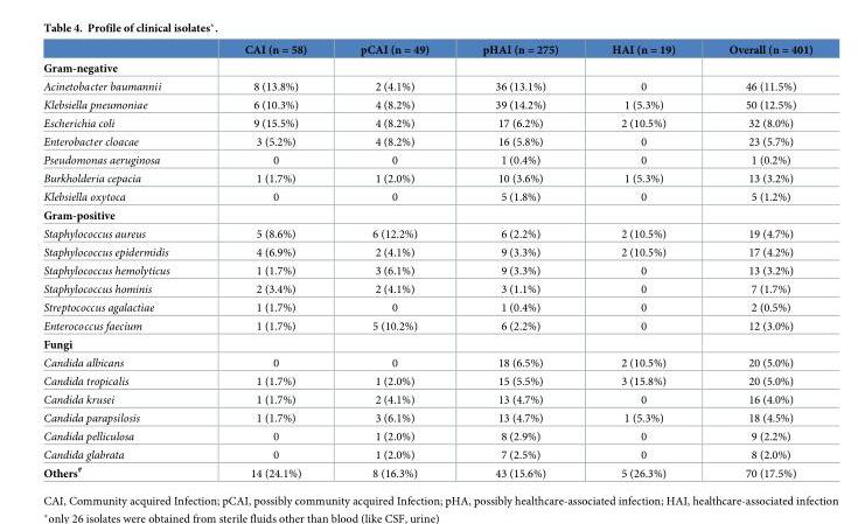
<table><thead><tr><td></td><td>CAI (n = 58)</td><td>pCAI (n = 49)</td><td>pHAI (n = 275)</td><td>HAI (n = 19)</td><td>Overall (n = 401)</td></tr></thead><tbody><tr><td colspan="6">Gram-negative</td></tr><tr><td>Acinetobacter baumannii</td><td>8 (13.8%)</td><td>2 (4.1%)</td><td>36 (13.1%)</td><td>0</td><td>46 (11.5%)</td></tr><tr><td>Klebsiella pneumoniae</td><td>6 (10.3%)</td><td>4 (8.2%)</td><td>39 (14.2%)</td><td>1 (5.3%)</td><td>50 (12.5%)</td></tr><tr><td>Escherichia coli</td><td>9 (15.5%)</td><td>4 (8.2%)</td><td>17 (6.2%)</td><td>2 (10.5%)</td><td>32 (8.0%)</td></tr><tr><td>Enterobacter cloacae</td><td>3 (5.2%)</td><td>4 (8.2%)</td><td>16 (5.8%)</td><td>0</td><td>23 (5.7%)</td></tr><tr><td>Pseudomonas aeruginosa</td><td>0</td><td>0</td><td>1 (0.4%)</td><td>0</td><td>1 (0.2%)</td></tr><tr><td>Burkholderia cepacia</td><td>1 (1.7%)</td><td>1 (2.0%)</td><td>10 (3.6%)</td><td>1 (5.3%)</td><td>13 (3.2%)</td></tr><tr><td>Klebsiella oxytoca</td><td>0</td><td>0</td><td>5 (1.8%)</td><td>0</td><td>5 (1.2%)</td></tr><tr><td colspan="6">Gram-positive</td></tr><tr><td>Staphylococcus aureus</td><td>5 (8.6%)</td><td>6 (12.2%)</td><td>6 (2.2%)</td><td>2 (10.5%)</td><td>19 (4.7%)</td></tr><tr><td>Staphylococcus epidermidis</td><td>4 (6.9%)</td><td>2 (4.1%)</td><td>9 (3.3%)</td><td>2 (10.5%)</td><td>17 (4.2%)</td></tr><tr><td>Staphylococcus hemolyticus</td><td>1 (1.7%)</td><td>3 (6.1%)</td><td>9 (3.3%)</td><td>0</td><td>13 (3.2%)</td></tr><tr><td>Staphylococcus hominis</td><td>2 (3.4%)</td><td>2 (4.1%)</td><td>3 (1.1%)</td><td>0</td><td>7 (1.7%)</td></tr><tr><td>Streptococcus agalactiae</td><td>1 (1.7%)</td><td>0</td><td>1 (0.4%)</td><td>0</td><td>2 (0.5%)</td></tr><tr><td>Enterococcus faecium</td><td>1 (1.7%)</td><td>5 (10.2%)</td><td>6 (2.2%)</td><td>0</td><td>12 (3.0%)</td></tr><tr><td colspan="6">Fungi</td></tr><tr><td>Candida albicans</td><td>0</td><td>0</td><td>18 (6.5%)</td><td>2 (10.5%)</td><td>20 (5.0%)</td></tr><tr><td>Candida tropicalis</td><td>1 (1.7%)</td><td>1 (2.0%)</td><td>15 (5.5%)</td><td>3 (15.8%)</td><td>20 (5.0%)</td></tr><tr><td>Candida krusei</td><td>1 (1.7%)</td><td>2 (4.1%)</td><td>13 (4.7%)</td><td>0</td><td>16 (4.0%)</td></tr><tr><td>Candida parapsilosis</td><td>1 (1.7%)</td><td>3 (6.1%)</td><td>13 (4.7%)</td><td>1 (5.3%)</td><td>18 (4.5%)</td></tr><tr><td>Candida pelliculosa</td><td>0</td><td>1 (2.0%)</td><td>8 (2.9%)</td><td>0</td><td>9 (2.2%)</td></tr><tr><td>Candida glabrata</td><td>0</td><td>1 (2.0%)</td><td>7 (2.5%)</td><td>0</td><td>8 (2.0%)</td></tr><tr><td>Others<sup>#</sup></td><td>14 (24.1%)</td><td>8 (16.3%)</td><td>43 (15.6%)</td><td>5 (26.3%)</td><td>70 (17.5%)</td></tr></tbody></table>